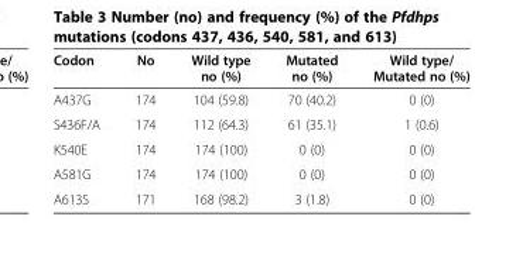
<table><thead><tr><td>Codon</td><td>No</td><td>Wild type no (%)</td><td>Mutated no (%)</td><td>Wild type/ Mutated no (%)</td></tr></thead><tbody><tr><td>A437G</td><td>174</td><td>104 (59.8)</td><td>70 (40.2)</td><td>0 (0)</td></tr><tr><td>S436F/A</td><td>174</td><td>112 (64.3)</td><td>61 (35.1)</td><td>1 (0.6)</td></tr><tr><td>K540E</td><td>174</td><td>174 (100)</td><td>0 (0)</td><td>0 (0)</td></tr><tr><td>A581G</td><td>174</td><td>174 (100)</td><td>0 (0)</td><td>0 (0)</td></tr><tr><td>A613S</td><td>171</td><td>168 (98.2)</td><td>3 (1.8)</td><td>0 (0)</td></tr></tbody></table>